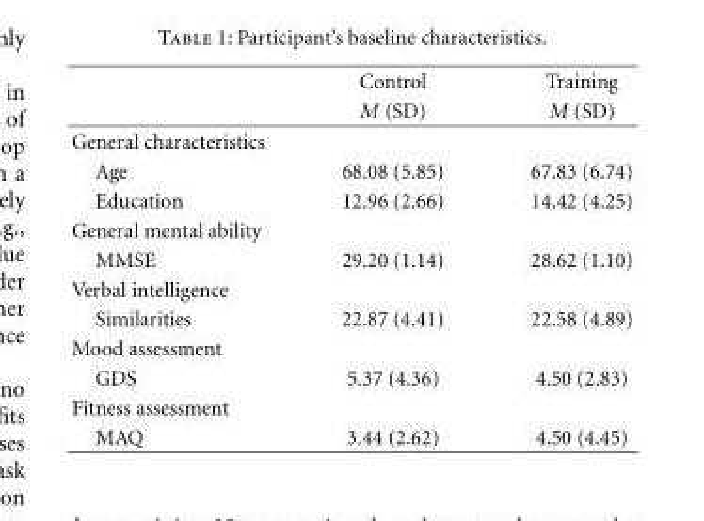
<table><thead><tr><td rowspan="2"></td><td rowspan="2">Control M (SD)</td><td rowspan="2">Training M (SD)</td></tr><tr></tr></thead><tbody><tr><td colspan="3">General characteristics</td></tr><tr><td>Age</td><td>68.08 (5.85)</td><td>67.83 (6.74)</td></tr><tr><td>Education</td><td>12.96 (2.66)</td><td>14.42 (4.25)</td></tr><tr><td colspan="3">General mental ability</td></tr><tr><td>MMSE</td><td>29.20 (1.14)</td><td>28.62 (1.10)</td></tr><tr><td colspan="3">Verbal intelligence</td></tr><tr><td>Similarities</td><td>22.87 (4.41)</td><td>22.58 (4.89)</td></tr><tr><td colspan="3">Mood assessment</td></tr><tr><td>GDS</td><td>5.37 (4.36)</td><td>4.50 (2.83)</td></tr><tr><td colspan="3">Fitness assessment</td></tr><tr><td>MAQ</td><td>3.44 (2.62)</td><td>4.50 (4.45)</td></tr></tbody></table>